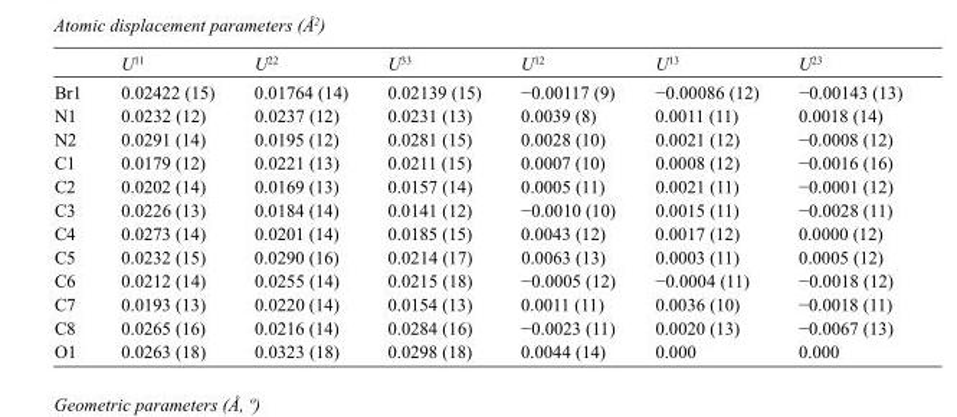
<table><thead><tr><td></td><td>U<sup>11</sup></td><td>U<sup>22</sup></td><td>U<sup>33</sup></td><td>U<sup>12</sup></td><td>U<sup>13</sup></td><td>U<sup>23</sup></td></tr></thead><tbody><tr><td>Br1</td><td>0.02422 (15)</td><td>0.01764 (14)</td><td>0.02139 (15)</td><td>−0.00117 (9)</td><td>−0.00086 (12)</td><td>−0.00143 (13)</td></tr><tr><td>N1</td><td>0.0232 (12)</td><td>0.0237 (12)</td><td>0.0231 (13)</td><td>0.0039 (8)</td><td>0.0011 (11)</td><td>0.0018 (14)</td></tr><tr><td>N2</td><td>0.0291 (14)</td><td>0.0195 (12)</td><td>0.0281 (15)</td><td>0.0028 (10)</td><td>0.0021 (12)</td><td>−0.0008 (12)</td></tr><tr><td>C1</td><td>0.0179 (12)</td><td>0.0221 (13)</td><td>0.0211 (15)</td><td>0.0007 (10)</td><td>0.0008 (12)</td><td>−0.0016 (16)</td></tr><tr><td>C2</td><td>0.0202 (14)</td><td>0.0169 (13)</td><td>0.0157 (14)</td><td>0.0005 (11)</td><td>0.0021 (11)</td><td>−0.0001 (12)</td></tr><tr><td>C3</td><td>0.0226 (13)</td><td>0.0184 (14)</td><td>0.0141 (12)</td><td>−0.0010 (10)</td><td>0.0015 (11)</td><td>−0.0028 (11)</td></tr><tr><td>C4</td><td>0.0273 (14)</td><td>0.0201 (14)</td><td>0.0185 (15)</td><td>0.0043 (12)</td><td>0.0017 (12)</td><td>0.0000 (12)</td></tr><tr><td>C5</td><td>0.0232 (15)</td><td>0.0290 (16)</td><td>0.0214 (17)</td><td>0.0063 (13)</td><td>0.0003 (11)</td><td>0.0005 (12)</td></tr><tr><td>C6</td><td>0.0212 (14)</td><td>0.0255 (14)</td><td>0.0215 (18)</td><td>−0.0005 (12)</td><td>−0.0004 (11)</td><td>−0.0018 (12)</td></tr><tr><td>C7</td><td>0.0193 (13)</td><td>0.0220 (14)</td><td>0.0154 (13)</td><td>0.0011 (11)</td><td>0.0036 (10)</td><td>−0.0018 (11)</td></tr><tr><td>C8</td><td>0.0265 (16)</td><td>0.0216 (14)</td><td>0.0284 (16)</td><td>−0.0023 (11)</td><td>0.0020 (13)</td><td>−0.0067 (13)</td></tr><tr><td>O1</td><td>0.0263 (18)</td><td>0.0323 (18)</td><td>0.0298 (18)</td><td>0.0044 (14)</td><td>0.000</td><td>0.000</td></tr></tbody></table>